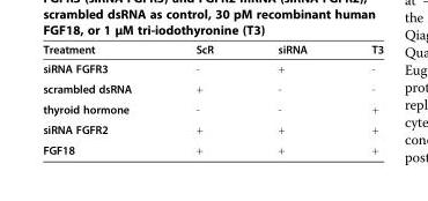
<table><thead><tr><td>Treatment</td><td>ScR</td><td>siRNA</td><td>T3</td></tr></thead><tbody><tr><td>siRNA FGFR3</td><td>-</td><td>+</td><td>-</td></tr><tr><td>scrambled dsRNA</td><td>+</td><td>-</td><td>-</td></tr><tr><td>thyroid hormone</td><td>-</td><td>-</td><td>+</td></tr><tr><td>siRNA FGFR2</td><td>+</td><td>+</td><td>+</td></tr><tr><td>FGF18</td><td>+</td><td>+</td><td>+</td></tr></tbody></table>